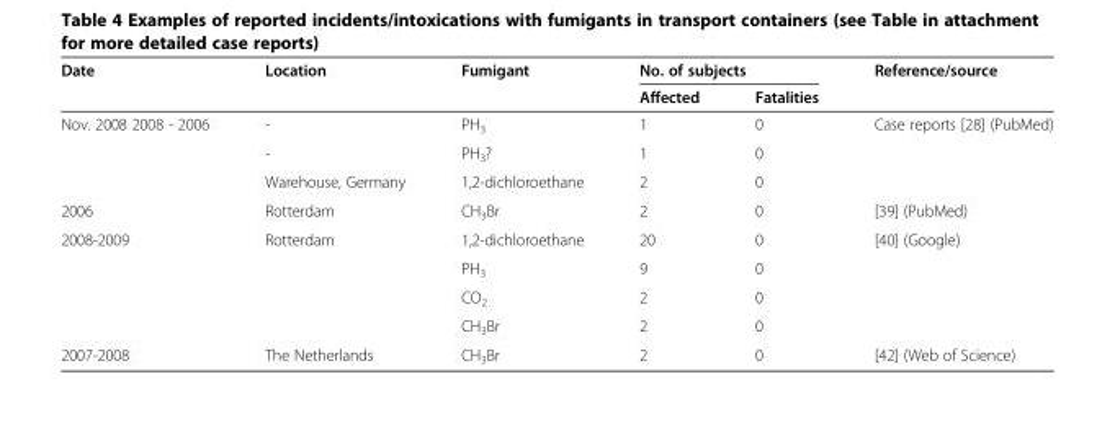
<table><thead><tr><td rowspan="2">Date</td><td rowspan="2">Location</td><td rowspan="2">Fumigant</td><td colspan="2">No. of subjects</td><td rowspan="2">Reference/source</td></tr><tr><td>Affected</td><td>Fatalities</td></tr></thead><tbody><tr><td rowspan="3">Nov. 2008 2008 - 2006</td><td>-</td><td>PH<sub>3</sub></td><td>1</td><td>0</td><td rowspan="3">Case reports [28] (PubMed)</td></tr><tr><td>-</td><td>PH<sub>3</sub>?</td><td>1</td><td>0</td></tr><tr><td>Warehouse, Germany</td><td>1,2-dichloroethane</td><td>2</td><td>0</td></tr><tr><td>2006</td><td>Rotterdam</td><td>CH<sub>3</sub>Br</td><td>2</td><td>0</td><td>[39] (PubMed)</td></tr><tr><td rowspan="4">2008-2009</td><td rowspan="4">Rotterdam</td><td>1,2-dichloroethane</td><td>20</td><td>0</td><td rowspan="4">[40] (Google)</td></tr><tr><td>PH<sub>3</sub></td><td>9</td><td>0</td></tr><tr><td>CO<sub>2</sub></td><td>2</td><td>0</td></tr><tr><td>CH<sub>3</sub>Br</td><td>2</td><td>0</td></tr><tr><td>2007-2008</td><td>The Netherlands</td><td>CH<sub>3</sub>Br</td><td>2</td><td>0</td><td>[42] (Web of Science)</td></tr></tbody></table>